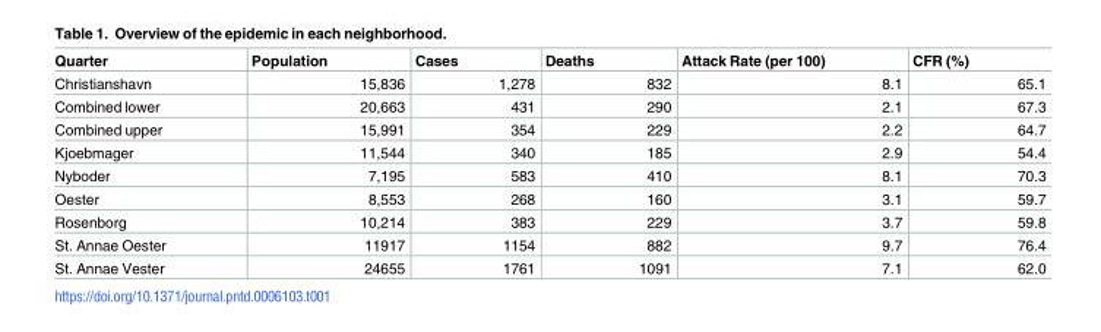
<table><thead><tr><td>Quarter</td><td>Population</td><td>Cases</td><td>Deaths</td><td>Attack Rate (per 100)</td><td>CFR (%)</td></tr></thead><tbody><tr><td>Christianshavn</td><td>15,836</td><td>1,278</td><td>832</td><td>8.1</td><td>65.1</td></tr><tr><td>Combined lower</td><td>20,663</td><td>431</td><td>290</td><td>2.1</td><td>67.3</td></tr><tr><td>Combined upper</td><td>15,991</td><td>354</td><td>229</td><td>2.2</td><td>64.7</td></tr><tr><td>Kjoebmager</td><td>11,544</td><td>340</td><td>185</td><td>2.9</td><td>54.4</td></tr><tr><td>Nyboder</td><td>7,195</td><td>583</td><td>410</td><td>8.1</td><td>70.3</td></tr><tr><td>Oester</td><td>8,553</td><td>268</td><td>160</td><td>3.1</td><td>59.7</td></tr><tr><td>Rosenborg</td><td>10,214</td><td>383</td><td>229</td><td>3.7</td><td>59.8</td></tr><tr><td>St. Annae Oester</td><td>11917</td><td>1154</td><td>882</td><td>9.7</td><td>76.4</td></tr><tr><td>St. Annae Vester</td><td>24655</td><td>1761</td><td>1091</td><td>7.1</td><td>62.0</td></tr></tbody></table>